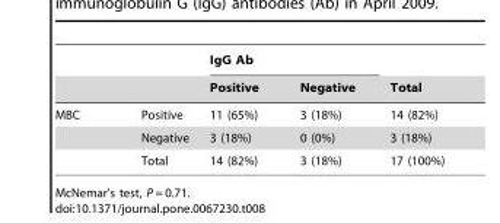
<table><thead><tr><td rowspan="2"></td><td rowspan="2"></td><td colspan="2">IgG Ab</td><td rowspan="2">Total</td></tr><tr><td>Positive</td><td>Negative</td></tr></thead><tbody><tr><td rowspan="3">MBC</td><td>Positive</td><td>11 (65%)</td><td>3 (18%)</td><td>14 (82%)</td></tr><tr><td>Negative</td><td>3 (18%)</td><td>0 (0%)</td><td>3 (18%)</td></tr><tr><td>Total</td><td>14 (82%)</td><td>3 (18%)</td><td>17 (100%)</td></tr></tbody></table>